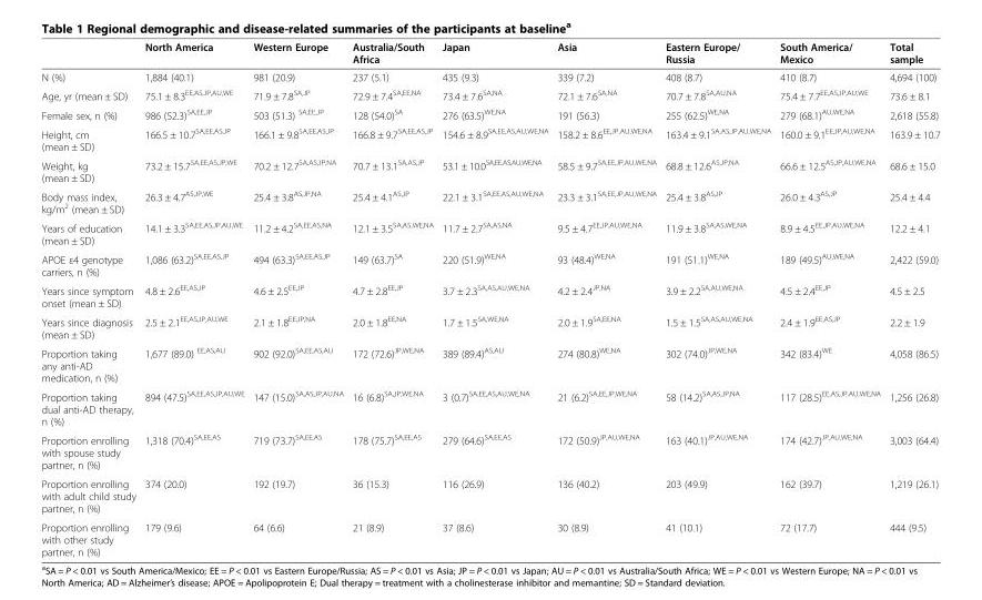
<table><thead><tr><td></td><td>North America</td><td>Western Europe</td><td>Australia/South Africa</td><td>Japan</td><td>Asia</td><td>Eastern Europe/ Russia</td><td>South America/ Mexico</td><td>Total sample</td></tr></thead><tbody><tr><td>N (%)</td><td>1,884 (40.1)</td><td>981 (20.9)</td><td>237 (5.1)</td><td>435 (9.3)</td><td>339 (7.2)</td><td>408 (8.7)</td><td>410 (8.7)</td><td>4,694 (100)</td></tr><tr><td>Age, yr (mean ± SD)</td><td>75.1 ± 8.3<sup>EE,AS,JP,AU,WE</sup></td><td>71.9 ± 7.8<sup>SA,JP</sup></td><td>72.9 ± 7.4<sup>SA,EE,NA</sup></td><td>73.4 ± 7.6<sup>SA,NA</sup></td><td>72.1 ± 7.6<sup>SA,NA</sup></td><td>70.7 ± 7.8<sup>SA,AU,NA</sup></td><td>75.4 ± 7.7<sup>EE,AS,JP,AU,WE</sup></td><td>73.6 ± 8.1</td></tr><tr><td>Female sex, n (%)</td><td>986 (52.3)<sup>SA,EE,JP</sup></td><td>503 (51.3) <sup>SA,EE,JP</sup></td><td>128 (54.0)<sup>SA</sup></td><td>276 (63.5)<sup>WE,NA</sup></td><td>191 (56.3)</td><td>255 (62.5)<sup>WE,NA</sup></td><td>279 (68.1)<sup>AU,WE,NA</sup></td><td>2,618 (55.8)</td></tr><tr><td>Height, cm (mean ± SD)</td><td>166.5 ± 10.7<sup>SA,EE,AS,JP</sup></td><td>166.1 ± 9.8<sup>SA,EE,AS,JP</sup></td><td>166.8 ± 9.7<sup>SA,EE,AS,JP</sup></td><td>154.6 ± 8.9<sup>SA,EE,AS,AU,WE,NA</sup></td><td>158.2 ± 8.6<sup>EE,JP,AU,WE,NA</sup></td><td>163.4 ± 9.1<sup>SA,AS,JP,AU,WE,NA</sup></td><td>160.0 ± 9.1<sup>EE,JP,AU,WE,NA</sup></td><td>163.9 ± 10.7</td></tr><tr><td>Weight, kg (mean ± SD)</td><td>73.2 ± 15.7<sup>SA,EE,AS,JP,WE</sup></td><td>70.2 ± 12.7<sup>SA,AS,JP,NA</sup></td><td>70.7 ± 13.1<sup>SA,AS,JP</sup></td><td>53.1 ± 10.0<sup>SA,EE,AS,AU,WE,NA</sup></td><td>58.5 ± 9.7<sup>SA,EE,JP,AU,WE,NA</sup></td><td>68.8 ± 12.6<sup>AS,JP,NA</sup></td><td>66.6 ± 12.5<sup>AS,JP,AU,WE,NA</sup></td><td>68.6 ± 15.0</td></tr><tr><td>Body mass index, kg/m<sup>2</sup> (mean ± SD)</td><td>26.3 ± 4.7<sup>AS,JP,WE</sup></td><td>25.4 ± 3.8<sup>AS,JP,NA</sup></td><td>25.4 ± 4.1<sup>AS,JP</sup></td><td>22.1 ± 3.1<sup>SA,EE,AS,AU,WE,NA</sup></td><td>23.3 ± 3.1<sup>SA,EE,JP,AU,WE,NA</sup></td><td>25.4 ± 3.8<sup>AS,JP</sup></td><td>26.0 ± 4.3<sup>AS,JP</sup></td><td>25.4 ± 4.4</td></tr><tr><td>Years of education (mean ± SD)</td><td>14.1 ± 3.3<sup>SA,EE,AS,JP,AU,WE</sup></td><td>11.2 ± 4.2<sup>SA,EE,AS,NA</sup></td><td>12.1 ± 3.5<sup>SA,AS,WE,NA</sup></td><td>11.7 ± 2.7<sup>SA,AS,NA</sup></td><td>9.5 ± 4.7<sup>EE,JP,AU,WE,NA</sup></td><td>11.9 ± 3.8<sup>SA,AS,WE,NA</sup></td><td>8.9 ± 4.5<sup>EE,JP,AU,WE,NA</sup></td><td>12.2 ± 4.1</td></tr><tr><td>APOE ε4 genotype carriers, n (%)</td><td>1,086 (63.2)<sup>SA,EE,AS,JP</sup></td><td>494 (63.3)<sup>SA,EE,AS,JP</sup></td><td>149 (63.7)<sup>SA</sup></td><td>220 (51.9)<sup>WE,NA</sup></td><td>93 (48.4)<sup>WE,NA</sup></td><td>191 (51.1)<sup>WE,NA</sup></td><td>189 (49.5)<sup>AU,WE,NA</sup></td><td>2,422 (59.0)</td></tr><tr><td>Years since symptom onset (mean ± SD)</td><td>4.8 ± 2.6<sup>EE,AS,JP</sup></td><td>4.6 ± 2.5<sup>EE,JP</sup></td><td>4.7 ± 2.8<sup>EE,JP</sup></td><td>3.7 ± 2.3<sup>SA,AS,AU,WE,NA</sup></td><td>4.2 ± 2.4<sup>JP,NA</sup></td><td>3.9 ± 2.2<sup>SA,AU,WE,NA</sup></td><td>4.5 ± 2.4<sup>EE,JP</sup></td><td>4.5 ± 2.5</td></tr><tr><td>Years since diagnosis (mean ± SD)</td><td>2.5 ± 2.1<sup>EE,AS,JP,AU,WE</sup></td><td>2.1 ± 1.8<sup>EE,JP,NA</sup></td><td>2.0 ± 1.8<sup>EE,NA</sup></td><td>1.7 ± 1.5<sup>SA,WE,NA</sup></td><td>2.0 ± 1.9<sup>SA,EE,NA</sup></td><td>1.5 ± 1.5<sup>SA,AS,AU,WE,NA</sup></td><td>2.4 ± 1.9<sup>EE,AS,JP</sup></td><td>2.2 ± 1.9</td></tr><tr><td>Proportion taking any anti-AD medication, n (%)</td><td>1,677 (89.0) <sup>EE,AS,AU</sup></td><td>902 (92.0)<sup>SA,EE,AS,AU</sup></td><td>172 (72.6)<sup>JP,WE,NA</sup></td><td>389 (89.4)<sup>AS,AU</sup></td><td>274 (80.8)<sup>WE,NA</sup></td><td>302 (74.0)<sup>JP,WE,NA</sup></td><td>342 (83.4)<sup>WE</sup></td><td>4,058 (86.5)</td></tr><tr><td>Proportion taking dual anti-AD therapy, n (%)</td><td>894 (47.5)<sup>SA,EE,AS,JP,AU,WE</sup></td><td>147 (15.0)<sup>SA,AS,JP,AU,NA</sup></td><td>16 (6.8)<sup>SA,JP,WE,NA</sup></td><td>3 (0.7)<sup>SA,EE,AS,AU,WE,NA</sup></td><td>21 (6.2)<sup>SA,EE,JP,WE,NA</sup></td><td>58 (14.2)<sup>SA,AS,JP,NA</sup></td><td>117 (28.5)<sup>EE,AS,JP,AU,WE,NA</sup></td><td>1,256 (26.8)</td></tr><tr><td>Proportion enrolling with spouse study partner, n (%)</td><td>1,318 (70.4)<sup>SA,EE,AS</sup></td><td>719 (73.7)<sup>SA,EE,AS</sup></td><td>178 (75.7)<sup>SA,EE,AS</sup></td><td>279 (64.6)<sup>SA,EE,AS</sup></td><td>172 (50.9)<sup>JP,AU,WE,NA</sup></td><td>163 (40.1)<sup>JP,AU,WE,NA</sup></td><td>174 (42.7)<sup>JP,AU,WE,NA</sup></td><td>3,003 (64.4)</td></tr><tr><td>Proportion enrolling with adult child study partner, n (%)</td><td>374 (20.0)</td><td>192 (19.7)</td><td>36 (15.3)</td><td>116 (26.9)</td><td>136 (40.2)</td><td>203 (49.9)</td><td>162 (39.7)</td><td>1,219 (26.1)</td></tr><tr><td>Proportion enrolling with other study partner, n (%)</td><td>179 (9.6)</td><td>64 (6.6)</td><td>21 (8.9)</td><td>37 (8.6)</td><td>30 (8.9)</td><td>41 (10.1)</td><td>72 (17.7)</td><td>444 (9.5)</td></tr></tbody></table>